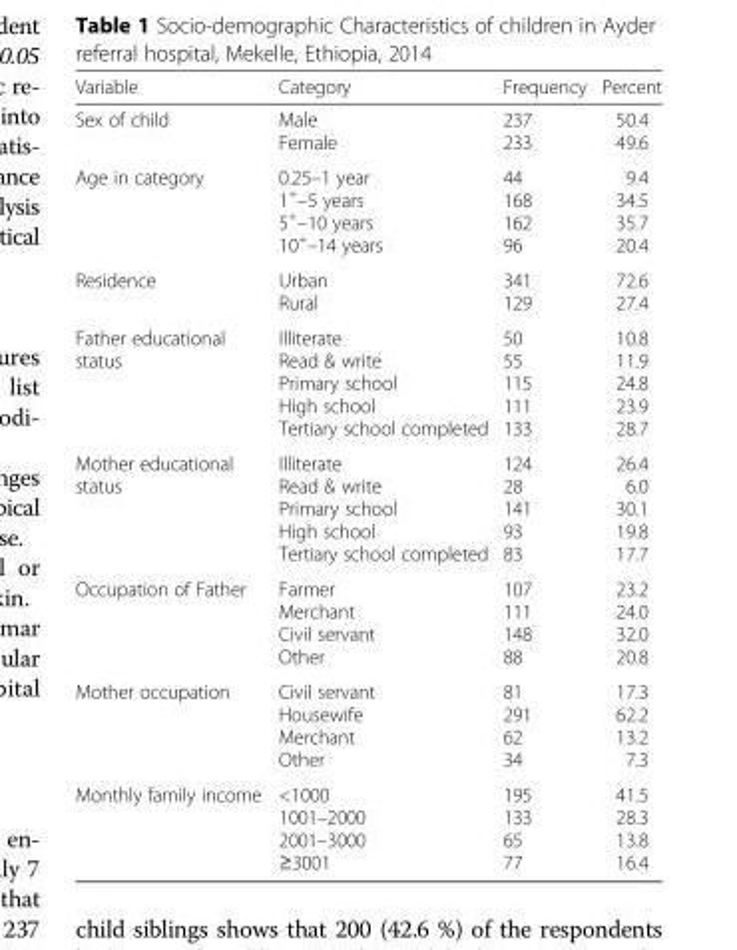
<table><thead><tr><td>Variable</td><td>Category</td><td>Frequency</td><td>Percent</td></tr></thead><tbody><tr><td>Sex of child</td><td>Male Female</td><td>237 233</td><td>50.4 49.6</td></tr><tr><td>Age in category</td><td>0.25–1 year 1<sup>+</sup>–5 years 5<sup>+</sup>–10 years 10<sup>+</sup>–14 years</td><td>44 168 162 96</td><td>9.4 34.5 35.7 20.4</td></tr><tr><td>Residence</td><td>Urban Rural</td><td>341 129</td><td>72.6 27.4</td></tr><tr><td>Father educational status</td><td>Illiterate Read &amp; write Primary school High school Tertiary school completed</td><td>50 55 115 111 133</td><td>10.8 11.9 24.8 23.9 28.7</td></tr><tr><td>Mother educational status</td><td>Illiterate Read &amp; write Primary school High school Tertiary school completed</td><td>124 28 141 93 83</td><td>26.4 6.0 30.1 19.8 17.7</td></tr><tr><td>Occupation of Father</td><td>Farmer Merchant Civil servant Other</td><td>107 111 148 88</td><td>23.2 24.0 32.0 20.8</td></tr><tr><td>Mother occupation</td><td>Civil servant Housewife Merchant Other</td><td>81 291 62 34</td><td>17.3 62.2 13.2 7.3</td></tr><tr><td>Monthly family income</td><td>&lt;1000 1001–2000 2001–3000 ≥3001</td><td>195 133 65 77</td><td>41.5 28.3 13.8 16.4</td></tr></tbody></table>